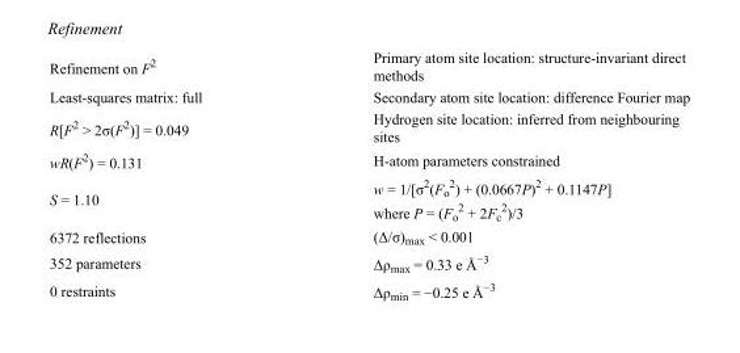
<table><tbody><tr><td>Refinement on F<sup>2</sup></td><td>Primary atom site location: structure-invariant direct methods</td></tr><tr><td>Least-squares matrix: full</td><td>Secondary atom site location: difference Fourier map</td></tr><tr><td>R[F<sup>2</sup> &gt; 2σ(F<sup>2</sup>)] = 0.049</td><td>Hydrogen site location: inferred from neighbouring sites</td></tr><tr><td>wR(F<sup>2</sup>) = 0.131</td><td>H-atom parameters constrained</td></tr><tr><td>S = 1.10</td><td>w = 1/[σ<sup>2</sup>(F<sub>o</sub> <sup>2</sup>) + (0.0667P)<sup>2</sup> + 0.1147P] where P = (F<sub>o</sub> <sup>2</sup> + 2F<sub>c</sub> <sup>2</sup>)/3</td></tr><tr><td>6372 reflections</td><td>(Δ/σ)<sub>max</sub> &lt; 0.001</td></tr><tr><td>352 parameters</td><td>Δρ<sub>max</sub> = 0.33 e Å<sup>−3</sup></td></tr><tr><td>0 restraints</td><td>Δρ<sub>min</sub> = −0.25 e Å<sup>−3</sup></td></tr></tbody></table>